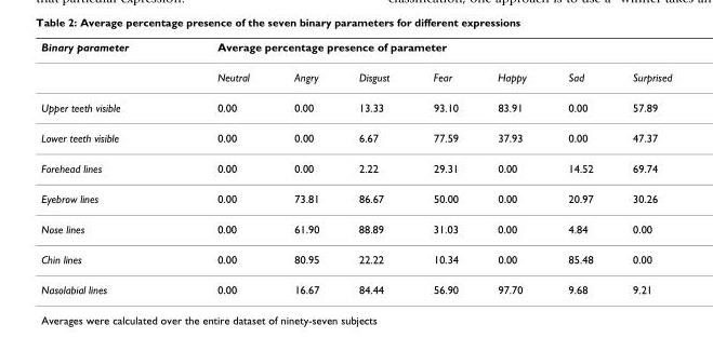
<table><thead><tr><td rowspan="2">Binary parameter</td><td colspan="7">Average percentage presence of parameter</td></tr><tr><td>Neutral</td><td>Angry</td><td>Disgust</td><td>Fear</td><td>Happy</td><td>Sad</td><td>Surprised</td></tr></thead><tbody><tr><td>Upper teeth visible</td><td>0.00</td><td>0.00</td><td>13.33</td><td>93.10</td><td>83.91</td><td>0.00</td><td>57.89</td></tr><tr><td>Lower teeth visible</td><td>0.00</td><td>0.00</td><td>6.67</td><td>77.59</td><td>37.93</td><td>0.00</td><td>47.37</td></tr><tr><td>Forehead lines</td><td>0.00</td><td>0.00</td><td>2.22</td><td>29.31</td><td>0.00</td><td>14.52</td><td>69.74</td></tr><tr><td>Eyebrow lines</td><td>0.00</td><td>73.81</td><td>86.67</td><td>50.00</td><td>0.00</td><td>20.97</td><td>30.26</td></tr><tr><td>Nose lines</td><td>0.00</td><td>61.90</td><td>88.89</td><td>31.03</td><td>0.00</td><td>4.84</td><td>0.00</td></tr><tr><td>Chin lines</td><td>0.00</td><td>80.95</td><td>22.22</td><td>10.34</td><td>0.00</td><td>85.48</td><td>0.00</td></tr><tr><td>Nasolabial lines</td><td>0.00</td><td>16.67</td><td>84.44</td><td>56.90</td><td>97.70</td><td>9.68</td><td>9.21</td></tr></tbody></table>